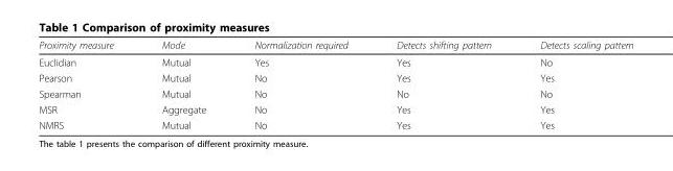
<table><thead><tr><td>Proximity measure</td><td>Mode</td><td>Normalization required</td><td>Detects shifting pattern</td><td>Detects scaling pattern</td></tr></thead><tbody><tr><td>Euclidian</td><td>Mutual</td><td>Yes</td><td>Yes</td><td>No</td></tr><tr><td>Pearson</td><td>Mutual</td><td>No</td><td>Yes</td><td>Yes</td></tr><tr><td>Spearman</td><td>Mutual</td><td>No</td><td>No</td><td>No</td></tr><tr><td>MSR</td><td>Aggregate</td><td>No</td><td>Yes</td><td>Yes</td></tr><tr><td>NMRS</td><td>Mutual</td><td>No</td><td>Yes</td><td>Yes</td></tr></tbody></table>